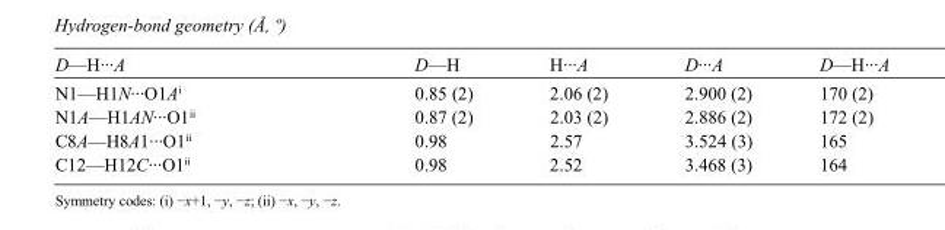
<table><tbody><tr><td>D—H···A</td><td>D—H</td><td>H···A</td><td>D···A</td><td>D—H···A</td></tr><tr><td>N1—H1N···O1A<sup>i</sup></td><td>0.85 (2)</td><td>2.06 (2)</td><td>2.900 (2)</td><td>170 (2)</td></tr><tr><td>N1A—H1AN···O1<sup>ii</sup></td><td>0.87 (2)</td><td>2.03 (2)</td><td>2.886 (2)</td><td>172 (2)</td></tr><tr><td>C8A—H8A1···O1<sup>ii</sup></td><td>0.98</td><td>2.57</td><td>3.524 (3)</td><td>165</td></tr><tr><td>C12—H12C···O1<sup>ii</sup></td><td>0.98</td><td>2.52</td><td>3.468 (3)</td><td>164</td></tr></tbody></table>